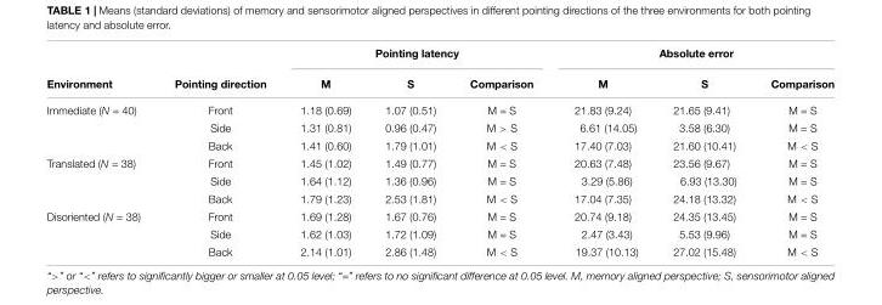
<table><thead><tr><td rowspan="2">Environment</td><td rowspan="2">Pointing direction</td><td colspan="3">Pointing latency</td><td colspan="3">Absolute error</td></tr><tr><td>M</td><td>S</td><td>Comparison</td><td>M</td><td>S</td><td>Comparison</td></tr></thead><tbody><tr><td rowspan="3">Immediate (N = 40)</td><td>Front</td><td>1.18 (0.69)</td><td>1.07 (0.51)</td><td>M = S</td><td>21.83 (9.24)</td><td>21.65 (9.41)</td><td>M = S</td></tr><tr><td>Side</td><td>1.31 (0.81)</td><td>0.96 (0.47)</td><td>M &gt; S</td><td>6.61 (14.05)</td><td>3.58 (6.30)</td><td>M = S</td></tr><tr><td>Back</td><td>1.41 (0.60)</td><td>1.79 (1.01)</td><td>M &lt; S</td><td>17.40 (7.03)</td><td>21.60 (10.41)</td><td>M &lt; S</td></tr><tr><td rowspan="3">Translated (N = 38)</td><td>Front</td><td>1.45 (1.02)</td><td>1.49 (0.77)</td><td>M = S</td><td>20.63 (7.48)</td><td>23.56 (9.67)</td><td>M = S</td></tr><tr><td>Side</td><td>1.64 (1.12)</td><td>1.36 (0.96)</td><td>M = S</td><td>3.29 (5.86)</td><td>6.93 (13.30)</td><td>M = S</td></tr><tr><td>Back</td><td>1.79 (1.23)</td><td>2.53 (1.81)</td><td>M &lt; S</td><td>17.04 (7.35)</td><td>24.18 (13.32)</td><td>M &lt; S</td></tr><tr><td rowspan="3">Disoriented (N = 38)</td><td>Front</td><td>1.69 (1.28)</td><td>1.67 (0.76)</td><td>M = S</td><td>20.74 (9.18)</td><td>24.35 (13.45)</td><td>M = S</td></tr><tr><td>Side</td><td>1.62 (1.03)</td><td>1.72 (1.09)</td><td>M = S</td><td>2.47 (3.43)</td><td>5.53 (9.96)</td><td>M = S</td></tr><tr><td>Back</td><td>2.14 (1.01)</td><td>2.86 (1.48)</td><td>M &lt; S</td><td>19.37 (10.13)</td><td>27.02 (15.48)</td><td>M &lt; S</td></tr></tbody></table>